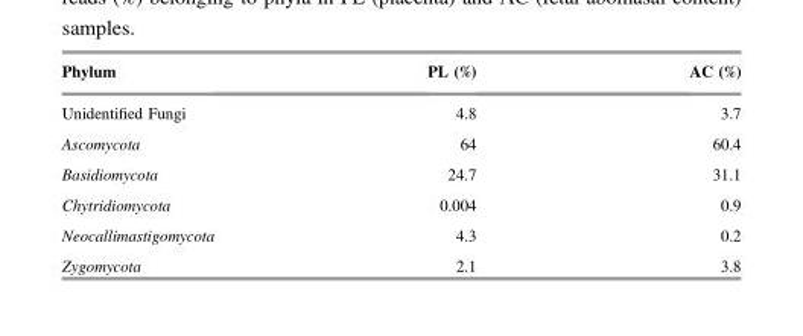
<table><thead><tr><td>Phylum</td><td>PL (%)</td><td>AC (%)</td></tr></thead><tbody><tr><td>Unidentified Fungi</td><td>4.8</td><td>3.7</td></tr><tr><td>Ascomycota</td><td>64</td><td>60.4</td></tr><tr><td>Basidiomycota</td><td>24.7</td><td>31.1</td></tr><tr><td>Chytridiomycota</td><td>0.004</td><td>0.9</td></tr><tr><td>Neocallimastigomycota</td><td>4.3</td><td>0.2</td></tr><tr><td>Zygomycota</td><td>2.1</td><td>3.8</td></tr></tbody></table>